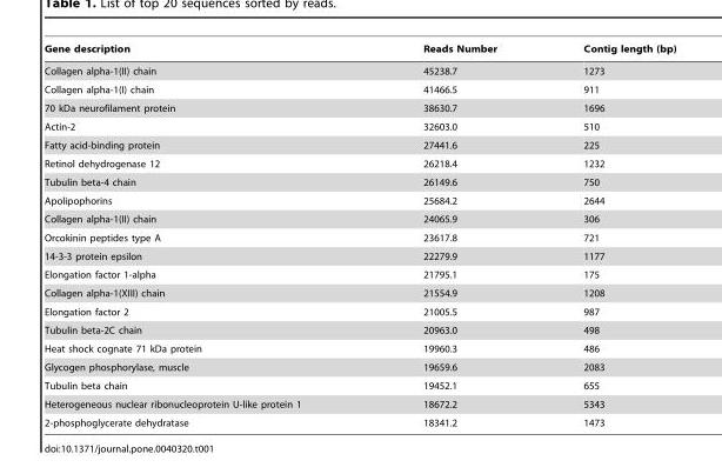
<table><thead><tr><td>Gene description</td><td>Reads Number</td><td>Contig length (bp)</td></tr></thead><tbody><tr><td>Collagen alpha-1(II) chain</td><td>45238.7</td><td>1273</td></tr><tr><td>Collagen alpha-1(I) chain</td><td>41466.5</td><td>911</td></tr><tr><td>70 kDa neurofilament protein</td><td>38630.7</td><td>1696</td></tr><tr><td>Actin-2</td><td>32603.0</td><td>510</td></tr><tr><td>Fatty acid-binding protein</td><td>27441.6</td><td>225</td></tr><tr><td>Retinol dehydrogenase 12</td><td>26218.4</td><td>1232</td></tr><tr><td>Tubulin beta-4 chain</td><td>26149.6</td><td>750</td></tr><tr><td>Apolipophorins</td><td>25684.2</td><td>2644</td></tr><tr><td>Collagen alpha-1(II) chain</td><td>24065.9</td><td>306</td></tr><tr><td>Orcokinin peptides type A</td><td>23617.8</td><td>721</td></tr><tr><td>14-3-3 protein epsilon</td><td>22279.9</td><td>1177</td></tr><tr><td>Elongation factor 1-alpha</td><td>21795.1</td><td>175</td></tr><tr><td>Collagen alpha-1(XIII) chain</td><td>21554.9</td><td>1208</td></tr><tr><td>Elongation factor 2</td><td>21005.5</td><td>987</td></tr><tr><td>Tubulin beta-2C chain</td><td>20963.0</td><td>498</td></tr><tr><td>Heat shock cognate 71 kDa protein</td><td>19960.3</td><td>486</td></tr><tr><td>Glycogen phosphorylase, muscle</td><td>19659.6</td><td>2083</td></tr><tr><td>Tubulin beta chain</td><td>19452.1</td><td>655</td></tr><tr><td>Heterogeneous nuclear ribonucleoprotein U-like protein 1</td><td>18672.2</td><td>5343</td></tr><tr><td>2-phosphoglycerate dehydratase</td><td>18341.2</td><td>1473</td></tr></tbody></table>